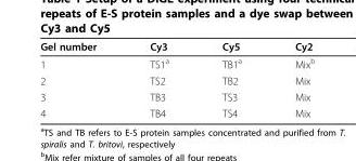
<table><thead><tr><td>Gel number</td><td>Cy3</td><td>Cy5</td><td>Cy2</td></tr></thead><tbody><tr><td>1</td><td>TS1<sup>a</sup></td><td>TB1<sup>a</sup></td><td>Mix<sup>b</sup></td></tr><tr><td>2</td><td>TS2</td><td>TB2</td><td>Mix</td></tr><tr><td>3</td><td>TB3</td><td>TS3</td><td>Mix</td></tr><tr><td>4</td><td>TB4</td><td>TS4</td><td>Mix</td></tr></tbody></table>